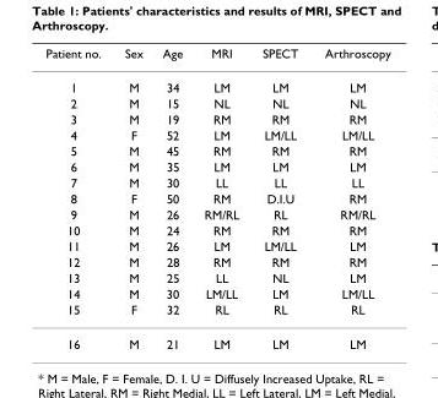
<table><thead><tr><td>Patient no.</td><td>Sex</td><td>Age</td><td>MRI</td><td>SPECT</td><td>Arthroscopy</td></tr></thead><tbody><tr><td>1</td><td>M</td><td>34</td><td>LM</td><td>LM</td><td>LM</td></tr><tr><td>2</td><td>M</td><td>15</td><td>NL</td><td>NL</td><td>NL</td></tr><tr><td>3</td><td>M</td><td>19</td><td>RM</td><td>RM</td><td>RM</td></tr><tr><td>4</td><td>F</td><td>52</td><td>LM</td><td>LM/LL</td><td>LM/LL</td></tr><tr><td>5</td><td>M</td><td>45</td><td>RM</td><td>RM</td><td>RM</td></tr><tr><td>6</td><td>M</td><td>35</td><td>LM</td><td>LM</td><td>LM</td></tr><tr><td>7</td><td>M</td><td>30</td><td>LL</td><td>LL</td><td>LL</td></tr><tr><td>8</td><td>F</td><td>50</td><td>RM</td><td>D.I.U</td><td>RM</td></tr><tr><td>9</td><td>M</td><td>26</td><td>RM/RL</td><td>RL</td><td>RM/RL</td></tr><tr><td>10</td><td>M</td><td>24</td><td>RM</td><td>RM</td><td>RM</td></tr><tr><td>11</td><td>M</td><td>26</td><td>LM</td><td>LM/LL</td><td>LM</td></tr><tr><td>12</td><td>M</td><td>28</td><td>RM</td><td>RM</td><td>RM</td></tr><tr><td>13</td><td>M</td><td>25</td><td>LL</td><td>NL</td><td>LM</td></tr><tr><td>14</td><td>M</td><td>30</td><td>LM/LL</td><td>LM</td><td>LM/LL</td></tr><tr><td>15</td><td>F</td><td>32</td><td>RL</td><td>RL</td><td>RL</td></tr><tr><td>16</td><td>M</td><td>21</td><td>LM</td><td>LM</td><td>LM</td></tr></tbody></table>